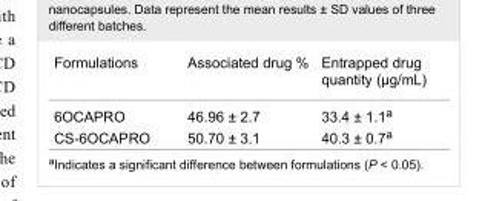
<table><tbody><tr><td>Formulations</td><td>Associated drug %</td><td>Entrapped drug quantity (µg/mL)</td></tr><tr><td>6OCAPRO</td><td>46.96 ± 2.7</td><td>33.4 ± 1.1<sup>a</sup></td></tr><tr><td>CS-6OCAPRO</td><td>50.70 ± 3.1</td><td>40.3 ± 0.7<sup>a</sup></td></tr></tbody></table>